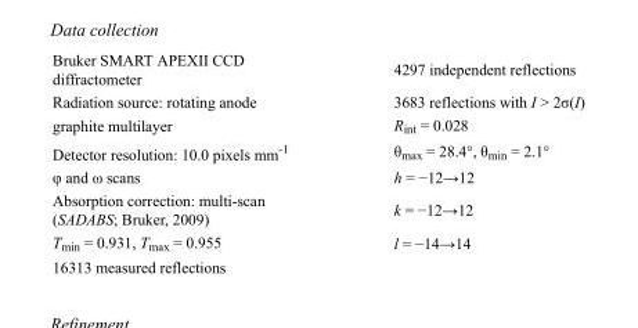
<table><tbody><tr><td>Bruker SMART APEXII CCD diffractometer</td><td>4297 independent reflections</td></tr><tr><td>Radiation source: rotating anode</td><td>3683 reflections with I &gt; 2σ(I)</td></tr><tr><td>graphite multilayer</td><td>R<sub>int</sub> = 0.028</td></tr><tr><td>Detector resolution: 10.0 pixels mm<sup>-1</sup></td><td>θ<sub>max</sub> = 28.4°, θ<sub>min</sub> = 2.1°</td></tr><tr><td>φ and ω scans</td><td>h = −12→12</td></tr><tr><td>Absorption correction: multi-scan (SADABS; Bruker, 2009)</td><td>k = −12→12</td></tr><tr><td>T<sub>min</sub> = 0.931, T<sub>max</sub> = 0.955</td><td>l = −14→14</td></tr><tr><td>16313 measured reflections</td><td></td></tr></tbody></table>